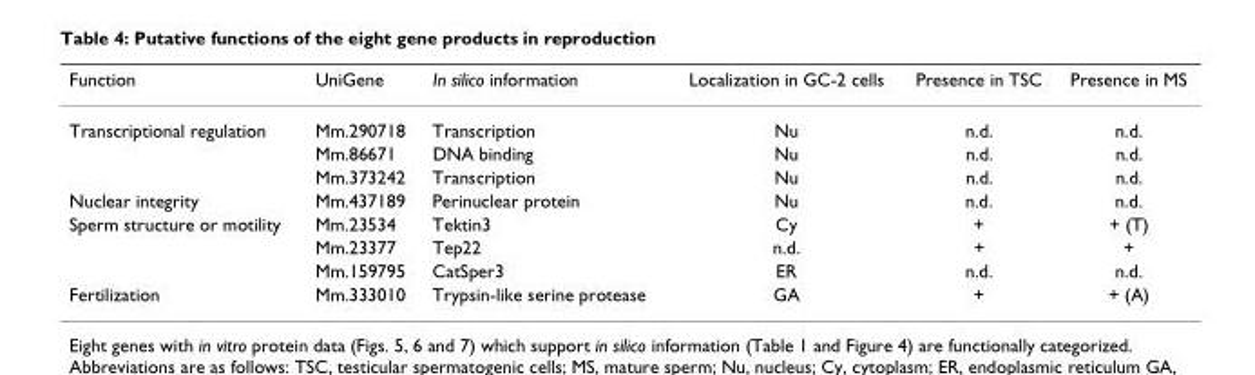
<table><thead><tr><td>Function</td><td>UniGene</td><td>In silico information</td><td>Localization in GC-2 cells</td><td>Presence in TSC</td><td>Presence in MS</td></tr></thead><tbody><tr><td rowspan="3">Transcriptional regulation</td><td>Mm.290718</td><td>Transcription</td><td>Nu</td><td>n.d.</td><td>n.d.</td></tr><tr><td>Mm.86671</td><td>DNA binding</td><td>Nu</td><td>n.d.</td><td>n.d.</td></tr><tr><td>Mm.373242</td><td>Transcription</td><td>Nu</td><td>n.d.</td><td>n.d.</td></tr><tr><td>Nuclear integrity</td><td>Mm.437189</td><td>Perinuclear protein</td><td>Nu</td><td>n.d.</td><td>n.d.</td></tr><tr><td rowspan="3">Sperm structure or motility</td><td>Mm.23534</td><td>Tektin3</td><td>Cy</td><td>+</td><td>+ (T)</td></tr><tr><td>Mm.23377</td><td>Tep22</td><td>n.d.</td><td>+</td><td>+</td></tr><tr><td>Mm.159795</td><td>CatSper3</td><td>ER</td><td>n.d.</td><td>n.d.</td></tr><tr><td>Fertilization</td><td>Mm.333010</td><td>Trypsin-like serine protease</td><td>GA</td><td>+</td><td>+ (A)</td></tr></tbody></table>